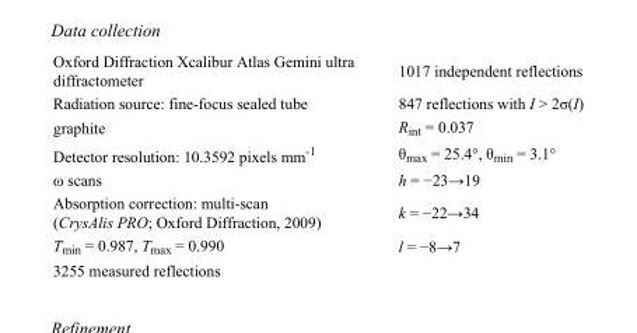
<table><tbody><tr><td>Oxford Diffraction Xcalibur Atlas Gemini ultra diffractometer</td><td>1017 independent reflections</td></tr><tr><td>Radiation source: fine-focus sealed tube</td><td>847 reflections with I &gt; 2σ(I)</td></tr><tr><td>graphite</td><td>R<sub>int</sub> = 0.037</td></tr><tr><td>Detector resolution: 10.3592 pixels mm<sup>-1</sup></td><td>θ<sub>max</sub> = 25.4°, θ<sub>min</sub> = 3.1°</td></tr><tr><td>ω scans</td><td>h = −23→19</td></tr><tr><td>Absorption correction: multi-scan (CrysAlis PRO; Oxford Diffraction, 2009)</td><td>k = −22→34</td></tr><tr><td>T<sub>min</sub> = 0.987, T<sub>max</sub> = 0.990</td><td>l = −8→7</td></tr><tr><td>3255 measured reflections</td><td></td></tr></tbody></table>